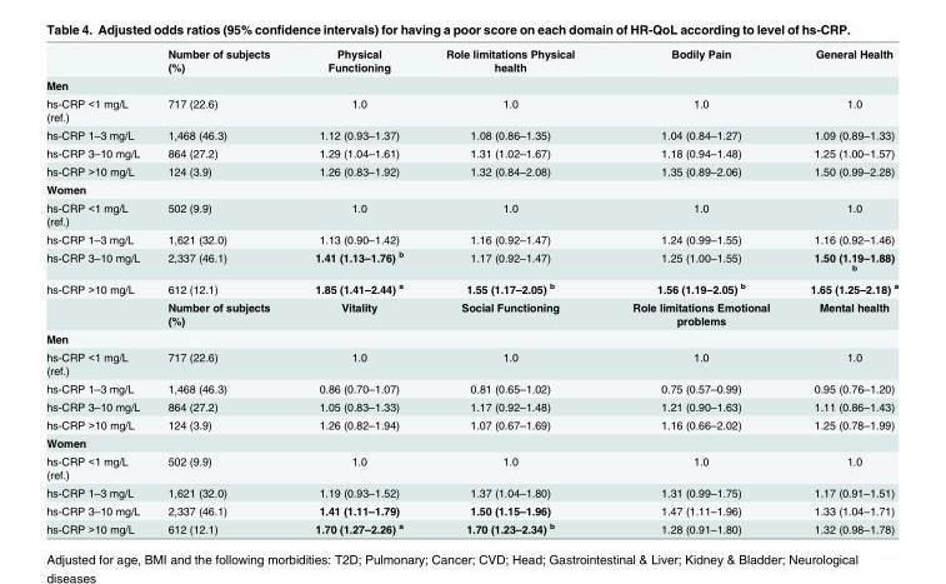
<table><thead><tr><td></td><td>Number of subjects (%)</td><td>Physical Functioning</td><td>Role limitations Physical health</td><td>Bodily Pain</td><td>General Health</td></tr></thead><tbody><tr><td colspan="6">Men</td></tr><tr><td>hs-CRP &lt;1 mg/L (ref.)</td><td>717 (22.6)</td><td>1.0</td><td>1.0</td><td>1.0</td><td>1.0</td></tr><tr><td>hs-CRP 1–3 mg/L</td><td>1,468 (46.3)</td><td>1.12 (0.93–1.37)</td><td>1.08 (0.86–1.35)</td><td>1.04 (0.84–1.27)</td><td>1.09 (0.89–1.33)</td></tr><tr><td>hs-CRP 3–10 mg/L</td><td>864 (27.2)</td><td>1.29 (1.04–1.61)</td><td>1.31 (1.02–1.67)</td><td>1.18 (0.94–1.48)</td><td>1.25 (1.00–1.57)</td></tr><tr><td>hs-CRP &gt;10 mg/L</td><td>124 (3.9)</td><td>1.26 (0.83–1.92)</td><td>1.32 (0.84–2.08)</td><td>1.35 (0.89–2.06)</td><td>1.50 (0.99–2.28)</td></tr><tr><td colspan="6">Women</td></tr><tr><td>hs-CRP &lt;1 mg/L (ref.)</td><td>502 (9.9)</td><td>1.0</td><td>1.0</td><td>1.0</td><td>1.0</td></tr><tr><td>hs-CRP 1–3 mg/L</td><td>1,621 (32.0)</td><td>1.13 (0.90–1.42)</td><td>1.16 (0.92–1.47)</td><td>1.24 (0.99–1.55)</td><td>1.16 (0.92–1.46)</td></tr><tr><td>hs-CRP 3–10 mg/L</td><td>2,337 (46.1)</td><td>1.41 (1.13–1.76) <sup>b</sup></td><td>1.17 (0.92–1.47)</td><td>1.25 (1.00–1.55)</td><td>1.50 (1.19–1.88) <sup>b</sup></td></tr><tr><td rowspan="2">hs-CRP &gt;10 mg/L</td><td>612 (12.1)</td><td>1.85 (1.41–2.44) <sup>a</sup></td><td>1.55 (1.17–2.05) <sup>b</sup></td><td>1.56 (1.19–2.05) <sup>b</sup></td><td>1.65 (1.25–2.18) <sup>a</sup></td></tr><tr><td>Number of subjects (%)</td><td>Vitality</td><td>Social Functioning</td><td>Role limitations Emotional problems</td><td>Mental health</td></tr><tr><td colspan="6">Men</td></tr><tr><td>hs-CRP &lt;1 mg/L (ref.)</td><td>717 (22.6)</td><td>1.0</td><td>1.0</td><td>1.0</td><td>1.0</td></tr><tr><td>hs-CRP 1–3 mg/L</td><td>1,468 (46.3)</td><td>0.86 (0.70–1.07)</td><td>0.81 (0.65–1.02)</td><td>0.75 (0.57–0.99)</td><td>0.95 (0.76–1.20)</td></tr><tr><td>hs-CRP 3–10 mg/L</td><td>864 (27.2)</td><td>1.05 (0.83–1.33)</td><td>1.17 (0.92–1.48)</td><td>1.21 (0.90–1.63)</td><td>1.11 (0.86–1.43)</td></tr><tr><td>hs-CRP &gt;10 mg/L</td><td>124 (3.9)</td><td>1.26 (0.82–1.94)</td><td>1.07 (0.67–1.69)</td><td>1.16 (0.66–2.02)</td><td>1.25 (0.78–1.99)</td></tr><tr><td colspan="6">Women</td></tr><tr><td>hs-CRP &lt;1 mg/L (ref.)</td><td>502 (9.9)</td><td>1.0</td><td>1.0</td><td>1.0</td><td>1.0</td></tr><tr><td>hs-CRP 1–3 mg/L</td><td>1,621 (32.0)</td><td>1.19 (0.93–1.52)</td><td>1.37 (1.04–1.80)</td><td>1.31 (0.99–1.75)</td><td>1.17 (0.91–1.51)</td></tr><tr><td>hs-CRP 3–10 mg/L</td><td>2,337 (46.1)</td><td>1.41 (1.11–1.79)</td><td>1.50 (1.15–1.96)</td><td>1.47 (1.11–1.96)</td><td>1.33 (1.04–1.71)</td></tr><tr><td>hs-CRP &gt;10 mg/L</td><td>612 (12.1)</td><td>1.70 (1.27–2.26) <sup>a</sup></td><td>1.70 (1.23–2.34) <sup>b</sup></td><td>1.28 (0.91–1.80)</td><td>1.32 (0.98–1.78)</td></tr></tbody></table>